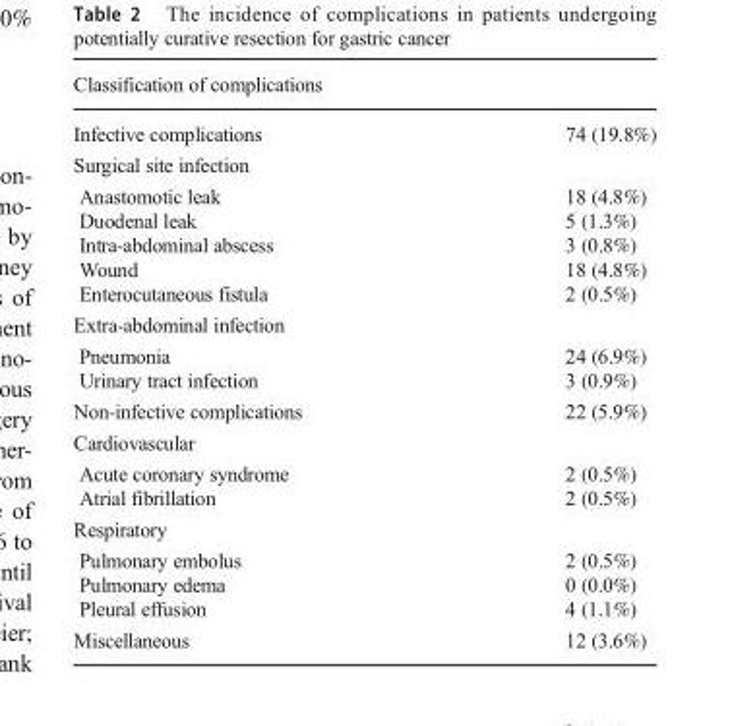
<table><thead><tr><td colspan="2">Classification of complications</td></tr><tr><td>Infective complications</td><td>74 (19.8%)</td></tr></thead><tbody><tr><td colspan="2">Surgical site infection</td></tr><tr><td>Anastomotic leak Duodenal leak Intra-abdominal abscess Wound Enterocutaneous fistula</td><td>18 (4.8%) 5 (1.3%) 3 (0.8%) 18 (4.8%) 2 (0.5%)</td></tr><tr><td colspan="2">Extra-abdominal infection</td></tr><tr><td>Pneumonia Urinary tract infection</td><td>24 (6.9%) 3 (0.9%)</td></tr><tr><td>Non-infective complications</td><td>22 (5.9%)</td></tr><tr><td colspan="2">Cardiovascular</td></tr><tr><td>Acute coronary syndrome Atrial fibrillation</td><td>2 (0.5%) 2 (0.5%)</td></tr><tr><td colspan="2">Respiratory</td></tr><tr><td>Pulmonary embolus Pulmonary edema Pleural effusion</td><td>2 (0.5%) 0 (0.0%) 4 (1.1%)</td></tr><tr><td>Miscellaneous</td><td>12 (3.6%)</td></tr></tbody></table>